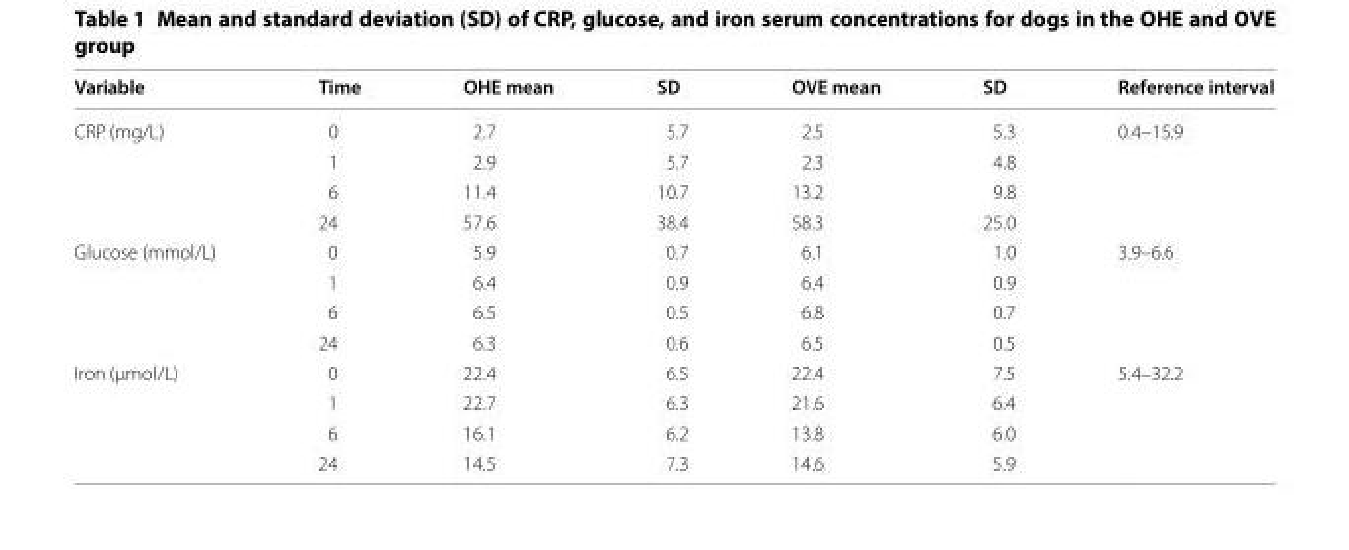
<table><thead><tr><td>Variable</td><td>Time</td><td>OHE mean</td><td>SD</td><td>OVE mean</td><td>SD</td><td>Reference interval</td></tr></thead><tbody><tr><td rowspan="4">CRP (mg/L)</td><td>0</td><td>2.7</td><td>5.7</td><td>2.5</td><td>5.3</td><td>0.4–15.9</td></tr><tr><td>1</td><td>2.9</td><td>5.7</td><td>2.3</td><td>4.8</td><td></td></tr><tr><td>6</td><td>11.4</td><td>10.7</td><td>13.2</td><td>9.8</td><td></td></tr><tr><td>24</td><td>57.6</td><td>38.4</td><td>58.3</td><td>25.0</td><td></td></tr><tr><td rowspan="4">Glucose (mmol/L)</td><td>0</td><td>5.9</td><td>0.7</td><td>6.1</td><td>1.0</td><td>3.9–6.6</td></tr><tr><td>1</td><td>6.4</td><td>0.9</td><td>6.4</td><td>0.9</td><td></td></tr><tr><td>6</td><td>6.5</td><td>0.5</td><td>6.8</td><td>0.7</td><td></td></tr><tr><td>24</td><td>6.3</td><td>0.6</td><td>6.5</td><td>0.5</td><td></td></tr><tr><td rowspan="4">Iron (µmol/L)</td><td>0</td><td>22.4</td><td>6.5</td><td>22.4</td><td>7.5</td><td>5.4–32.2</td></tr><tr><td>1</td><td>22.7</td><td>6.3</td><td>21.6</td><td>6.4</td><td></td></tr><tr><td>6</td><td>16.1</td><td>6.2</td><td>13.8</td><td>6.0</td><td></td></tr><tr><td>24</td><td>14.5</td><td>7.3</td><td>14.6</td><td>5.9</td><td></td></tr></tbody></table>